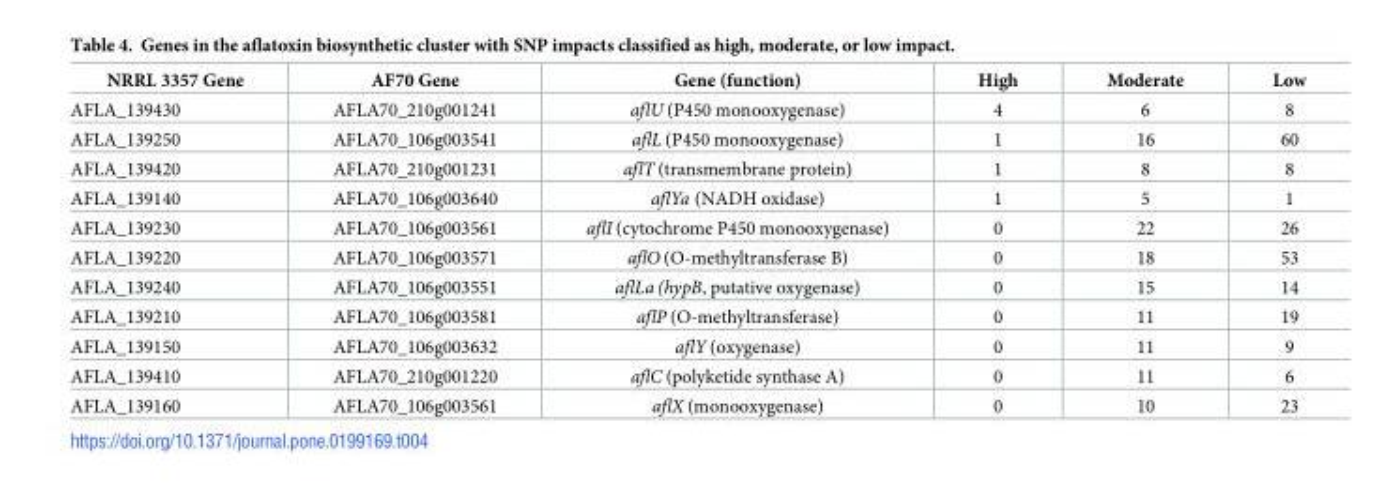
<table><thead><tr><td>NRRL 3357 Gene</td><td>AF70 Gene</td><td>Gene (function)</td><td>High</td><td>Moderate</td><td>Low</td></tr></thead><tbody><tr><td>AFLA_139430</td><td>AFLA70_210g001241</td><td>aflU (P450 monooxygenase)</td><td>4</td><td>6</td><td>8</td></tr><tr><td>AFLA_139250</td><td>AFLA70_106g003541</td><td>aflL (P450 monooxygenase)</td><td>1</td><td>16</td><td>60</td></tr><tr><td>AFLA_139420</td><td>AFLA70_210g001231</td><td>aflT (transmembrane protein)</td><td>1</td><td>8</td><td>8</td></tr><tr><td>AFLA_139140</td><td>AFLA70_106g003640</td><td>aflYa (NADH oxidase)</td><td>1</td><td>5</td><td>1</td></tr><tr><td>AFLA_139230</td><td>AFLA70_106g003561</td><td>aflI (cytochrome P450 monooxygenase)</td><td>0</td><td>22</td><td>26</td></tr><tr><td>AFLA_139220</td><td>AFLA70_106g003571</td><td>aflO (O-methyltransferase B)</td><td>0</td><td>18</td><td>53</td></tr><tr><td>AFLA_139240</td><td>AFLA70_106g003551</td><td>aflLa (hypB, putative oxygenase)</td><td>0</td><td>15</td><td>14</td></tr><tr><td>AFLA_139210</td><td>AFLA70_106g003581</td><td>aflP (O-methyltransferase)</td><td>0</td><td>11</td><td>19</td></tr><tr><td>AFLA_139150</td><td>AFLA70_106g003632</td><td>aflY (oxygenase)</td><td>0</td><td>11</td><td>9</td></tr><tr><td>AFLA_139410</td><td>AFLA70_210g001220</td><td>aflC (polyketide synthase A)</td><td>0</td><td>11</td><td>6</td></tr><tr><td>AFLA_139160</td><td>AFLA70_106g003561</td><td>aflX (monooxygenase)</td><td>0</td><td>10</td><td>23</td></tr></tbody></table>